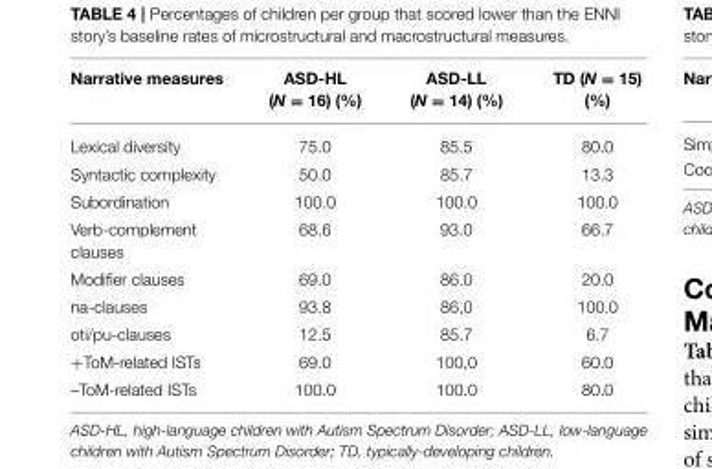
<table><thead><tr><td>Narrative measures</td><td>ASD-HL (N = 16) (%)</td><td>ASD-LL (N = 14) (%)</td><td>TD (N = 15) (%)</td></tr></thead><tbody><tr><td>Lexical diversity</td><td>75.0</td><td>85.5</td><td>80.0</td></tr><tr><td>Syntactic complexity</td><td>50.0</td><td>85.7</td><td>13.3</td></tr><tr><td>Subordination</td><td>100.0</td><td>100.0</td><td>100.0</td></tr><tr><td>Verb-complement clauses</td><td>68.6</td><td>93.0</td><td>66.7</td></tr><tr><td>Modifier clauses</td><td>69.0</td><td>86.0</td><td>20.0</td></tr><tr><td>na-clauses</td><td>93.8</td><td>86,0</td><td>100.0</td></tr><tr><td>oti/pu-clauses</td><td>12.5</td><td>85.7</td><td>6.7</td></tr><tr><td>+ToM-related ISTs</td><td>69.0</td><td>100,0</td><td>60.0</td></tr><tr><td>–ToM-related ISTs</td><td>100.0</td><td>100.0</td><td>80.0</td></tr></tbody></table>